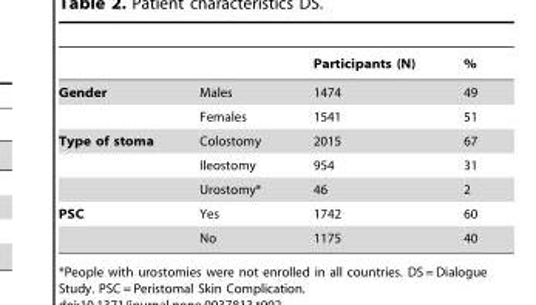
<table><thead><tr><td></td><td></td><td>Participants (N)</td><td>%</td></tr></thead><tbody><tr><td rowspan="2">Gender</td><td>Males</td><td>1474</td><td>49</td></tr><tr><td>Females</td><td>1541</td><td>51</td></tr><tr><td rowspan="3">Type of stoma</td><td>Colostomy</td><td>2015</td><td>67</td></tr><tr><td>Ileostomy</td><td>954</td><td>31</td></tr><tr><td>Urostomy*</td><td>46</td><td>2</td></tr><tr><td rowspan="2">PSC</td><td>Yes</td><td>1742</td><td>60</td></tr><tr><td>No</td><td>1175</td><td>40</td></tr></tbody></table>